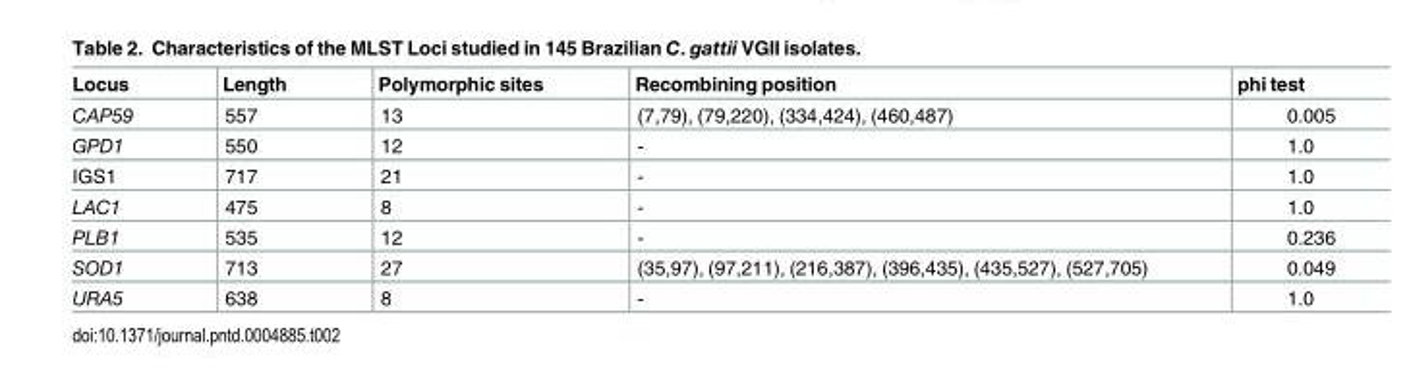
<table><thead><tr><td>Locus</td><td>Length</td><td>Polymorphic sites</td><td>Recombining position</td><td>phi test</td></tr></thead><tbody><tr><td>CAP59</td><td>557</td><td>13</td><td>(7,79), (79,220), (334,424), (460,487)</td><td>0.005</td></tr><tr><td>GPD1</td><td>550</td><td>12</td><td>-</td><td>1.0</td></tr><tr><td>IGS1</td><td>717</td><td>21</td><td>-</td><td>1.0</td></tr><tr><td>LAC1</td><td>475</td><td>8</td><td>-</td><td>1.0</td></tr><tr><td>PLB1</td><td>535</td><td>12</td><td>-</td><td>0.236</td></tr><tr><td>SOD1</td><td>713</td><td>27</td><td>(35,97), (97,211), (216,387), (396,435), (435,527), (527,705)</td><td>0.049</td></tr><tr><td>URA5</td><td>638</td><td>8</td><td>-</td><td>1.0</td></tr></tbody></table>